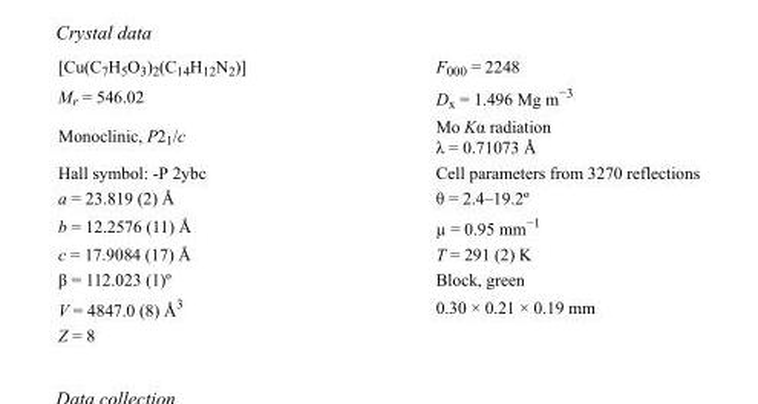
<table><tbody><tr><td>[Cu(C<sub>7</sub>H<sub>5</sub>O<sub>3</sub>)<sub>2</sub>(C<sub>14</sub>H<sub>12</sub>N<sub>2</sub>)]</td><td>F<sub>000</sub> = 2248</td></tr><tr><td>M<sub>r</sub> = 546.02</td><td>D<sub>x</sub> = 1.496 Mg m<sup>−3</sup></td></tr><tr><td>Monoclinic, P2<sub>1</sub>/c</td><td>Mo Kα radiation λ = 0.71073 Å</td></tr><tr><td>Hall symbol: -P 2ybc</td><td>Cell parameters from 3270 reflections</td></tr><tr><td>a = 23.819 (2) Å</td><td>θ = 2.4–19.2º</td></tr><tr><td>b = 12.2576 (11) Å</td><td>µ = 0.95 mm<sup>−1</sup></td></tr><tr><td>c = 17.9084 (17) Å</td><td>T = 291 (2) K</td></tr><tr><td>β = 112.023 (1)º</td><td>Block, green</td></tr><tr><td>V = 4847.0 (8) Å<sup>3</sup></td><td>0.30 × 0.21 × 0.19 mm</td></tr><tr><td>Z = 8</td><td></td></tr></tbody></table>